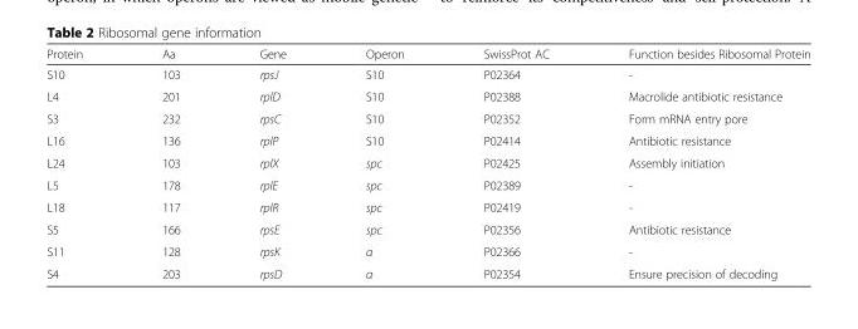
<table><thead><tr><td>Protein</td><td>Aa</td><td>Gene</td><td>Operon</td><td>SwissProt AC</td><td>Function besides Ribosomal Protein</td></tr></thead><tbody><tr><td>S10</td><td>103</td><td>rpsJ</td><td>S10</td><td>P02364</td><td>-</td></tr><tr><td>L4</td><td>201</td><td>rplD</td><td>S10</td><td>P02388</td><td>Macrolide antibiotic resistance</td></tr><tr><td>S3</td><td>232</td><td>rpsC</td><td>S10</td><td>P02352</td><td>Form mRNA entry pore</td></tr><tr><td>L16</td><td>136</td><td>rplP</td><td>S10</td><td>P02414</td><td>Antibiotic resistance</td></tr><tr><td>L24</td><td>103</td><td>rplX</td><td>spc</td><td>P02425</td><td>Assembly initiation</td></tr><tr><td>L5</td><td>178</td><td>rplE</td><td>spc</td><td>P02389</td><td>-</td></tr><tr><td>L18</td><td>117</td><td>rplR</td><td>spc</td><td>P02419</td><td>-</td></tr><tr><td>S5</td><td>166</td><td>rpsE</td><td>spc</td><td>P02356</td><td>Antibiotic resistance</td></tr><tr><td>S11</td><td>128</td><td>rpsK</td><td>α</td><td>P02366</td><td>-</td></tr><tr><td>S4</td><td>203</td><td>rpsD</td><td>α</td><td>P02354</td><td>Ensure precision of decoding</td></tr></tbody></table>